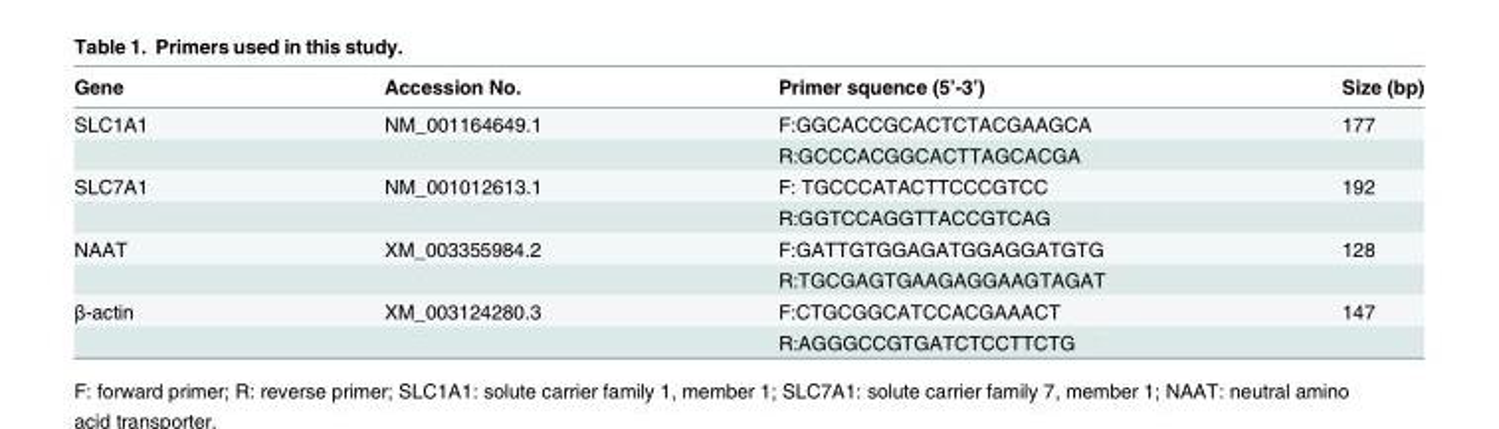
<table><thead><tr><td>Gene</td><td>Accession No.</td><td>Primer squence (5’-3’)</td><td>Size (bp)</td></tr></thead><tbody><tr><td rowspan="2">SLC1A1</td><td>NM_001164649.1</td><td>F:GGCACCGCACTCTACGAAGCA</td><td>177</td></tr><tr><td></td><td>R:GCCCACGGCACTTAGCACGA</td><td></td></tr><tr><td rowspan="2">SLC7A1</td><td>NM_001012613.1</td><td>F: TGCCCATACTTCCCGTCC</td><td>192</td></tr><tr><td></td><td>R:GGTCCAGGTTACCGTCAG</td><td></td></tr><tr><td rowspan="2">NAAT</td><td>XM_003355984.2</td><td>F:GATTGTGGAGATGGAGGATGTG</td><td>128</td></tr><tr><td></td><td>R:TGCGAGTGAAGAGGAAGTAGAT</td><td></td></tr><tr><td rowspan="2">β-actin</td><td>XM_003124280.3</td><td>F:CTGCGGCATCCACGAAACT</td><td>147</td></tr><tr><td></td><td>R:AGGGCCGTGATCTCCTTCTG</td><td></td></tr></tbody></table>